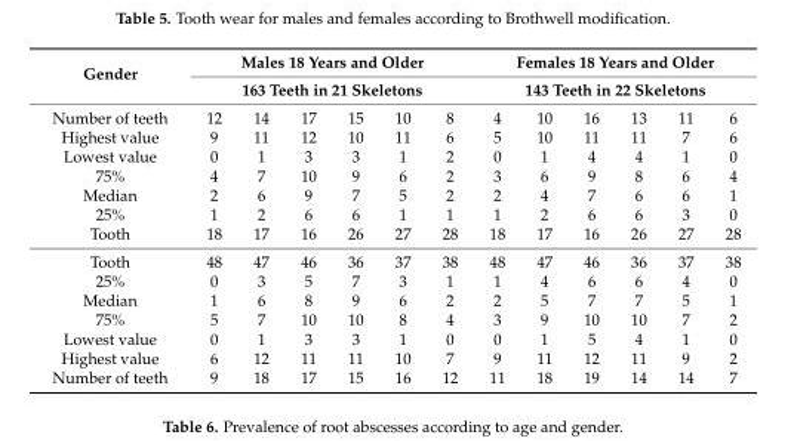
<table><thead><tr><td rowspan="3">Gender Number of teeth</td><td rowspan="2" colspan="6">Males 18 Years and Older 163 Teeth in 21 Skeletons</td><td rowspan="2" colspan="6">Females 18 Years and Older 143 Teeth in 22 Skeletons</td></tr><tr></tr><tr><td>12</td><td>14</td><td>17</td><td>15</td><td>10</td><td>8</td><td>4</td><td>10</td><td>16</td><td>13</td><td>11</td><td>6</td></tr></thead><tbody><tr><td>Highest value</td><td>9</td><td>11</td><td>12</td><td>10</td><td>11</td><td>6</td><td>5</td><td>10</td><td>11</td><td>11</td><td>7</td><td>6</td></tr><tr><td>Lowest value</td><td>0</td><td>1</td><td>3</td><td>3</td><td>1</td><td>2</td><td>0</td><td>1</td><td>4</td><td>4</td><td>1</td><td>0</td></tr><tr><td>75%</td><td>4</td><td>7</td><td>10</td><td>9</td><td>6</td><td>2</td><td>3</td><td>6</td><td>9</td><td>8</td><td>6</td><td>4</td></tr><tr><td>Median</td><td>2</td><td>6</td><td>9</td><td>7</td><td>5</td><td>2</td><td>2</td><td>4</td><td>7</td><td>6</td><td>6</td><td>1</td></tr><tr><td>25%</td><td>1</td><td>2</td><td>6</td><td>6</td><td>1</td><td>1</td><td>1</td><td>2</td><td>6</td><td>6</td><td>3</td><td>0</td></tr><tr><td>Tooth</td><td>18</td><td>17</td><td>16</td><td>26</td><td>27</td><td>28</td><td>18</td><td>17</td><td>16</td><td>26</td><td>27</td><td>28</td></tr><tr><td>Tooth</td><td>48</td><td>47</td><td>46</td><td>36</td><td>37</td><td>38</td><td>48</td><td>47</td><td>46</td><td>36</td><td>37</td><td>38</td></tr><tr><td>25%</td><td>0</td><td>3</td><td>5</td><td>7</td><td>3</td><td>1</td><td>1</td><td>4</td><td>6</td><td>6</td><td>4</td><td>0</td></tr><tr><td>Median</td><td>1</td><td>6</td><td>8</td><td>9</td><td>6</td><td>2</td><td>2</td><td>5</td><td>7</td><td>7</td><td>5</td><td>1</td></tr><tr><td>75%</td><td>5</td><td>7</td><td>10</td><td>10</td><td>8</td><td>4</td><td>3</td><td>9</td><td>10</td><td>10</td><td>7</td><td>2</td></tr><tr><td>Lowest value</td><td>0</td><td>1</td><td>3</td><td>3</td><td>1</td><td>0</td><td>0</td><td>1</td><td>5</td><td>4</td><td>1</td><td>0</td></tr><tr><td>Highest value</td><td>6</td><td>12</td><td>11</td><td>11</td><td>10</td><td>7</td><td>9</td><td>11</td><td>12</td><td>11</td><td>9</td><td>2</td></tr><tr><td>Number of teeth</td><td>9</td><td>18</td><td>17</td><td>15</td><td>16</td><td>12</td><td>11</td><td>18</td><td>19</td><td>14</td><td>14</td><td>7</td></tr></tbody></table>